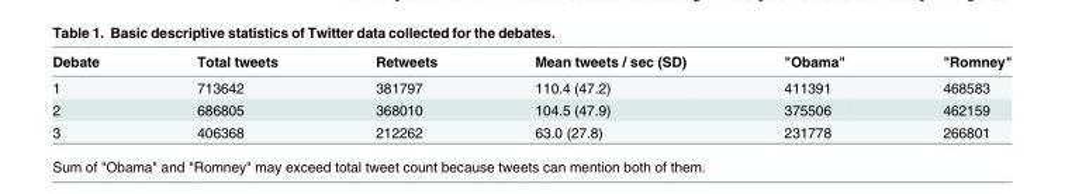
<table><thead><tr><td>Debate</td><td>Total tweets</td><td>Retweets</td><td>Mean tweets / sec (SD)</td><td>&quot;Obama&quot;</td><td>&quot;Romney&quot;</td></tr></thead><tbody><tr><td>1</td><td>713642</td><td>381797</td><td>110.4 (47.2)</td><td>411391</td><td>468583</td></tr><tr><td>2</td><td>686805</td><td>368010</td><td>104.5 (47.9)</td><td>375506</td><td>462159</td></tr><tr><td>3</td><td>406368</td><td>212262</td><td>63.0 (27.8)</td><td>231778</td><td>266801</td></tr></tbody></table>